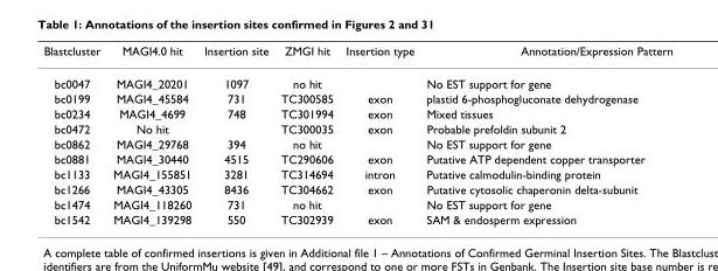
<table><thead><tr><td>Blastcluster</td><td>MAGI4.0 hit</td><td>Insertion site</td><td>ZMGI hit</td><td>Insertion type</td><td>Annotation/Expression Pattern</td></tr></thead><tbody><tr><td>bc0047</td><td>MAGI4_20201</td><td>1097</td><td>no hit</td><td></td><td>No EST support for gene</td></tr><tr><td>bc0199</td><td>MAGI4_45584</td><td>731</td><td>TC300585</td><td>exon</td><td>plastid 6-phosphogluconate dehydrogenase</td></tr><tr><td>bc0234</td><td>MAGI4_4699</td><td>748</td><td>TC301994</td><td>exon</td><td>Mixed tissues</td></tr><tr><td>bc0472</td><td>No hit</td><td></td><td>TC300035</td><td>exon</td><td>Probable prefoldin subunit 2</td></tr><tr><td>bc0862</td><td>MAGI4_29768</td><td>394</td><td>no hit</td><td></td><td>No EST support for gene</td></tr><tr><td>bc0881</td><td>MAGI4_30440</td><td>4515</td><td>TC290606</td><td>exon</td><td>Putative ATP dependent copper transporter</td></tr><tr><td>bc1133</td><td>MAGI4_155851</td><td>3281</td><td>TC314694</td><td>intron</td><td>Putative calmodulin-binding protein</td></tr><tr><td>bc1266</td><td>MAGI4_43305</td><td>8436</td><td>TC304662</td><td>exon</td><td>Putative cytosolic chaperonin delta-subunit</td></tr><tr><td>bc1474</td><td>MAGI4_118260</td><td>731</td><td>no hit</td><td></td><td>No EST support for gene</td></tr><tr><td>bc1542</td><td>MAGI4_139298</td><td>550</td><td>TC302939</td><td>exon</td><td>SAM &amp; endosperm expression</td></tr></tbody></table>